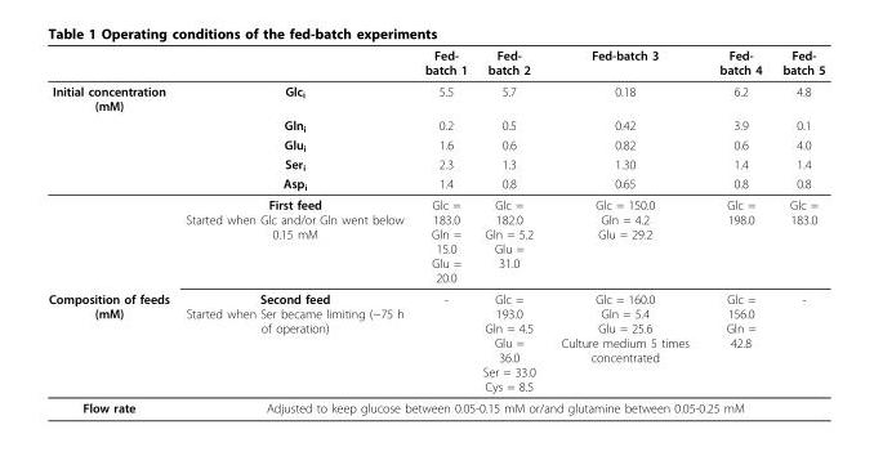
<table><thead><tr><td></td><td></td><td>Fed- batch 1</td><td>Fed- batch 2</td><td>Fed-batch 3</td><td>Fed- batch 4</td><td>Fed- batch 5</td></tr></thead><tbody><tr><td rowspan="6">Initial concentration (mM)</td><td>Glc<sub>i</sub></td><td>5.5</td><td>5.7</td><td>0.18</td><td>6.2</td><td>4.8</td></tr><tr><td>Gln<sub>i</sub></td><td>0.2</td><td>0.5</td><td>0.42</td><td>3.9</td><td>0.1</td></tr><tr><td>Glu<sub>i</sub></td><td>1.6</td><td>0.6</td><td>0.82</td><td>0.6</td><td>4.0</td></tr><tr><td>Ser<sub>i</sub></td><td>2.3</td><td>1.3</td><td>1.30</td><td>1.4</td><td>1.4</td></tr><tr><td>Asp<sub>i</sub></td><td>1.4</td><td>0.8</td><td>0.65</td><td>0.8</td><td>0.8</td></tr><tr><td>First feed Started when Glc and/or Gln went below 0.15 mM</td><td>Glc = 183.0 Gln = 15.0 Glu = 20.0</td><td>Glc = 182.0 Gln = 5.2 Glu = 31.0</td><td>Glc = 150.0 Gln = 4.2 Glu = 29.2</td><td>Glc = 198.0</td><td>Glc = 183.0</td></tr><tr><td>Composition of feeds (mM)</td><td>Second feed Started when Ser became limiting (~75 h of operation)</td><td>-</td><td>Glc = 193.0 Gln = 4.5 Glu = 36.0 Ser = 33.0 Cys = 8.5</td><td>Glc = 160.0 Gln = 5.4 Glu = 25.6 Culture medium 5 times concentrated</td><td>Glc = 156.0 Gln = 42.8</td><td>-</td></tr><tr><td>Flow rate</td><td colspan="6">Adjusted to keep glucose between 0.05-0.15 mM or/and glutamine between 0.05-0.25 mM</td></tr></tbody></table>